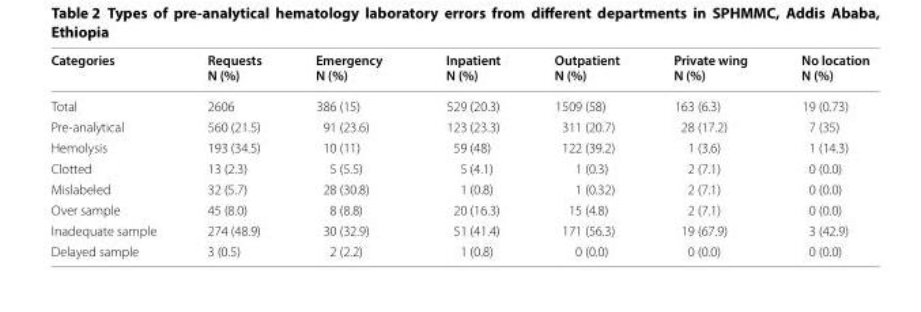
<table><thead><tr><td>Categories</td><td>Requests N (%)</td><td>Emergency N (%)</td><td>Inpatient N (%)</td><td>Outpatient N (%)</td><td>Private wing N (%)</td><td>No location N (%)</td></tr></thead><tbody><tr><td>Total</td><td>2606</td><td>386 (15)</td><td>529 (20.3)</td><td>1509 (58)</td><td>163 (6.3)</td><td>19 (0.73)</td></tr><tr><td>Pre-analytical</td><td>560 (21.5)</td><td>91 (23.6)</td><td>123 (23.3)</td><td>311 (20.7)</td><td>28 (17.2)</td><td>7 (35)</td></tr><tr><td>Hemolysis</td><td>193 (34.5)</td><td>10 (11)</td><td>59 (48)</td><td>122 (39.2)</td><td>1 (3.6)</td><td>1 (14.3)</td></tr><tr><td>Clotted</td><td>13 (2.3)</td><td>5 (5.5)</td><td>5 (4.1)</td><td>1 (0.3)</td><td>2 (7.1)</td><td>0 (0.0)</td></tr><tr><td>Mislabeled</td><td>32 (5.7)</td><td>28 (30.8)</td><td>1 (0.8)</td><td>1 (0.32)</td><td>2 (7.1)</td><td>0 (0.0)</td></tr><tr><td>Over sample</td><td>45 (8.0)</td><td>8 (8.8)</td><td>20 (16.3)</td><td>15 (4.8)</td><td>2 (7.1)</td><td>0 (0.0)</td></tr><tr><td>Inadequate sample</td><td>274 (48.9)</td><td>30 (32.9)</td><td>51 (41.4)</td><td>171 (56.3)</td><td>19 (67.9)</td><td>3 (42.9)</td></tr><tr><td>Delayed sample</td><td>3 (0.5)</td><td>2 (2.2)</td><td>1 (0.8)</td><td>0 (0.0)</td><td>0 (0.0)</td><td>0 (0.0)</td></tr></tbody></table>